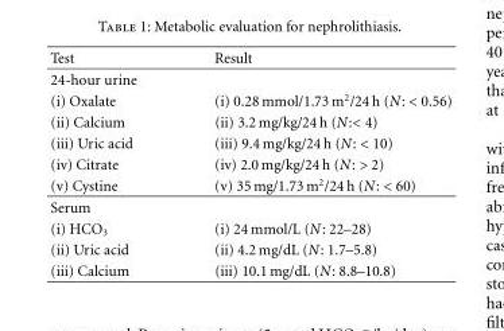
<table><thead><tr><td>Test</td><td>Result</td></tr></thead><tbody><tr><td colspan="2">24-hour urine</td></tr><tr><td>(i) Oxalate</td><td>(i) 0.28 mmol/1.73 m<sup>2</sup>/24 h (N: &lt; 0.56)</td></tr><tr><td>(ii) Calcium</td><td>(ii) 3.2 mg/kg/24 h (N:&lt; 4)</td></tr><tr><td>(iii) Uric acid</td><td>(iii) 9.4 mg/kg/24 h (N: &lt; 10)</td></tr><tr><td>(iv) Citrate</td><td>(iv) 2.0 mg/kg/24 h (N: &gt; 2)</td></tr><tr><td>(v) Cystine</td><td>(v) 35 mg/1.73 m<sup>2</sup>/24 h (N: &lt; 60)</td></tr><tr><td colspan="2">Serum</td></tr><tr><td>(i) HCO<sub>3</sub></td><td>(i) 24 mmol/L (N: 22–28)</td></tr><tr><td>(ii) Uric acid</td><td>(ii) 4.2 mg/dL (N: 1.7–5.8)</td></tr><tr><td>(iii) Calcium</td><td>(iii) 10.1 mg/dL (N: 8.8–10.8)</td></tr></tbody></table>